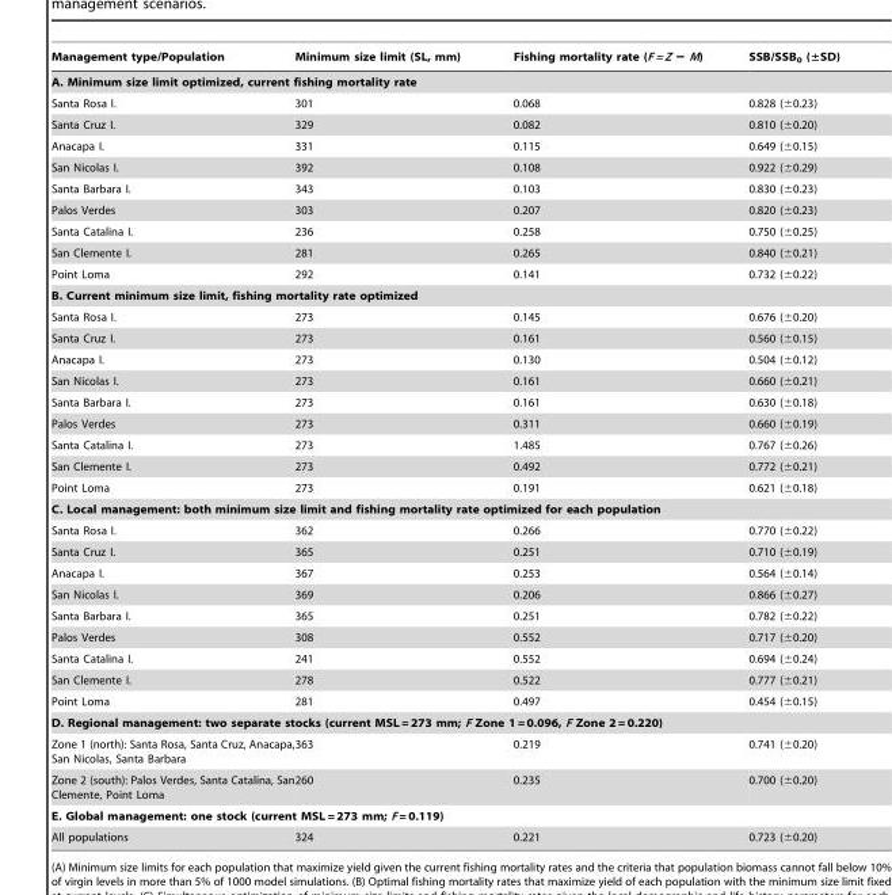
<table><thead><tr><td>Management type/Population</td><td>Minimum size limit (SL, mm)</td><td>Fishing mortality rate (F = Z − M)</td><td>SSB/SSB<sub>0</sub> (±SD)</td></tr></thead><tbody><tr><td colspan="4">A. Minimum size limit optimized, current fishing mortality rate</td></tr><tr><td>Santa Rosa I.</td><td>301</td><td>0.068</td><td>0.828 (±0.23)</td></tr><tr><td>Santa Cruz I.</td><td>329</td><td>0.082</td><td>0.810 (±0.20)</td></tr><tr><td>Anacapa I.</td><td>331</td><td>0.115</td><td>0.649 (±0.15)</td></tr><tr><td>San Nicolas I.</td><td>392</td><td>0.108</td><td>0.922 (±0.29)</td></tr><tr><td>Santa Barbara I.</td><td>343</td><td>0.103</td><td>0.830 (±0.23)</td></tr><tr><td>Palos Verdes</td><td>303</td><td>0.207</td><td>0.820 (±0.23)</td></tr><tr><td>Santa Catalina I.</td><td>236</td><td>0.258</td><td>0.750 (±0.25)</td></tr><tr><td>San Clemente I.</td><td>281</td><td>0.265</td><td>0.840 (±0.21)</td></tr><tr><td>Point Loma</td><td>292</td><td>0.141</td><td>0.732 (±0.22)</td></tr><tr><td colspan="4">B. Current minimum size limit, fishing mortality rate optimized</td></tr><tr><td>Santa Rosa I.</td><td>273</td><td>0.145</td><td>0.676 (±0.20)</td></tr><tr><td>Santa Cruz I.</td><td>273</td><td>0.161</td><td>0.560 (±0.15)</td></tr><tr><td>Anacapa I.</td><td>273</td><td>0.130</td><td>0.504 (±0.12)</td></tr><tr><td>San Nicolas I.</td><td>273</td><td>0.161</td><td>0.660 (±0.21)</td></tr><tr><td>Santa Barbara I.</td><td>273</td><td>0.161</td><td>0.630 (±0.18)</td></tr><tr><td>Palos Verdes</td><td>273</td><td>0.311</td><td>0.660 (±0.19)</td></tr><tr><td>Santa Catalina I.</td><td>273</td><td>1.485</td><td>0.767 (±0.26)</td></tr><tr><td>San Clemente I.</td><td>273</td><td>0.492</td><td>0.772 (±0.21)</td></tr><tr><td>Point Loma</td><td>273</td><td>0.191</td><td>0.621 (±0.18)</td></tr><tr><td colspan="4">C. Local management: both minimum size limit and fishing mortality rate optimized for each population</td></tr><tr><td>Santa Rosa I.</td><td>362</td><td>0.266</td><td>0.770 (±0.22)</td></tr><tr><td>Santa Cruz I.</td><td>365</td><td>0.251</td><td>0.710 (±0.19)</td></tr><tr><td>Anacapa I.</td><td>367</td><td>0.253</td><td>0.564 (±0.14)</td></tr><tr><td>San Nicolas I.</td><td>369</td><td>0.206</td><td>0.866 (±0.27)</td></tr><tr><td>Santa Barbara I.</td><td>365</td><td>0.251</td><td>0.782 (±0.22)</td></tr><tr><td>Palos Verdes</td><td>308</td><td>0.552</td><td>0.717 (±0.20)</td></tr><tr><td>Santa Catalina I.</td><td>241</td><td>0.552</td><td>0.694 (±0.24)</td></tr><tr><td>San Clemente I.</td><td>278</td><td>0.522</td><td>0.777 (±0.21)</td></tr><tr><td>Point Loma</td><td>281</td><td>0.497</td><td>0.454 (±0.15)</td></tr><tr><td colspan="4">D. Regional management: two separate stocks (current MSL = 273 mm; F Zone 1 = 0.096, F Zone 2 = 0.220)</td></tr><tr><td>Zone 1 (north): Santa Rosa, Santa Cruz, Anacapa, San Nicolas, Santa Barbara</td><td>363</td><td>0.219</td><td>0.741 (±0.20)</td></tr><tr><td>Zone 2 (south): Palos Verdes, Santa Catalina, San Clemente, Point Loma</td><td>260</td><td>0.235</td><td>0.700 (±0.20)</td></tr><tr><td colspan="4">E. Global management: one stock (current MSL = 273 mm; F = 0.119)</td></tr><tr><td>All populations</td><td>324</td><td>0.221</td><td>0.723 (±0.20)</td></tr></tbody></table>